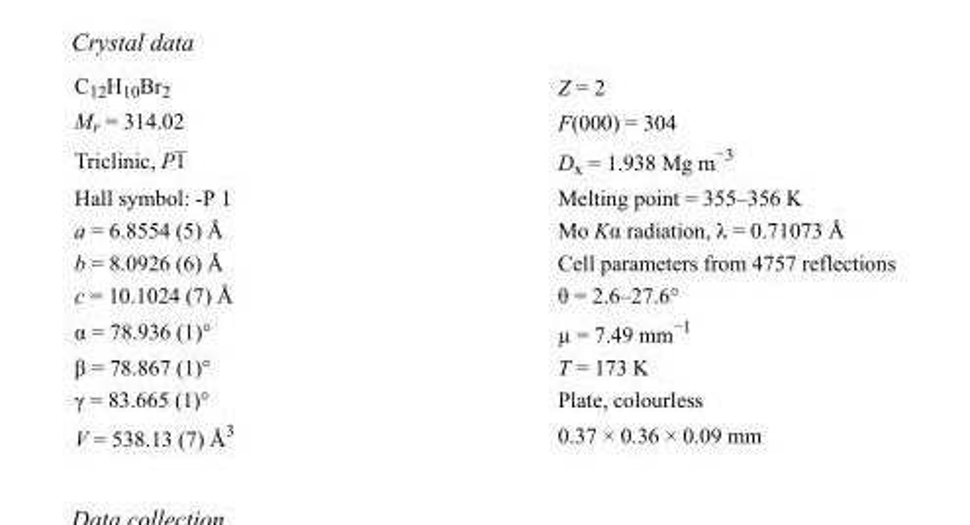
<table><tbody><tr><td>C<sub>12</sub>H<sub>10</sub>Br<sub>2</sub></td><td>Z = 2</td></tr><tr><td>M<sub>r</sub> = 314.02</td><td>F(000) = 304</td></tr><tr><td>Triclinic, P1</td><td>D<sub>x</sub> = 1.938 Mg m<sup>−3</sup></td></tr><tr><td>Hall symbol: -P 1</td><td>Melting point = 355–356 K</td></tr><tr><td>a = 6.8554 (5) Å</td><td>Mo Kα radiation, λ = 0.71073 Å</td></tr><tr><td>b = 8.0926 (6) Å</td><td>Cell parameters from 4757 reflections</td></tr><tr><td>c = 10.1024 (7) Å</td><td>θ = 2.6–27.6°</td></tr><tr><td>α = 78.936 (1)°</td><td>µ = 7.49 mm<sup>−1</sup></td></tr><tr><td>β = 78.867 (1)°</td><td>T = 173 K</td></tr><tr><td>γ = 83.665 (1)°</td><td>Plate, colourless</td></tr><tr><td>V = 538.13 (7) Å<sup>3</sup></td><td>0.37 × 0.36 × 0.09 mm</td></tr></tbody></table>